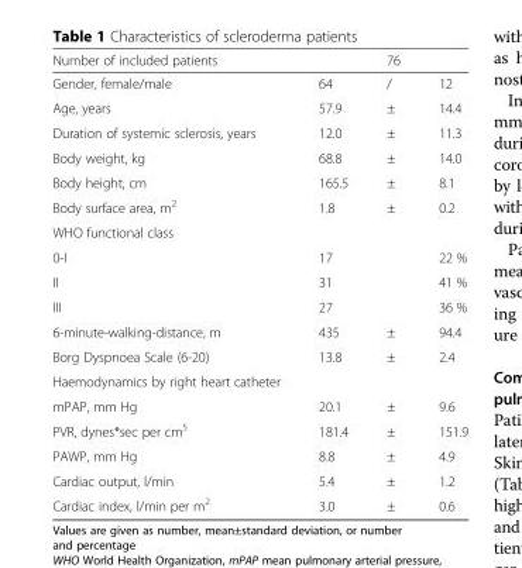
<table><thead><tr><td>Number of included patients</td><td></td><td>76</td><td></td></tr></thead><tbody><tr><td>Gender, female/male</td><td>64</td><td>/</td><td>12</td></tr><tr><td>Age, years</td><td>57.9</td><td>±</td><td>14.4</td></tr><tr><td>Duration of systemic sclerosis, years</td><td>12.0</td><td>±</td><td>11.3</td></tr><tr><td>Body weight, kg</td><td>68.8</td><td>±</td><td>14.0</td></tr><tr><td>Body height, cm</td><td>165.5</td><td>±</td><td>8.1</td></tr><tr><td>Body surface area, m<sup>2</sup></td><td>1.8</td><td>±</td><td>0.2</td></tr><tr><td colspan="4">WHO functional class</td></tr><tr><td>0-I</td><td>17</td><td></td><td>22 %</td></tr><tr><td>II</td><td>31</td><td></td><td>41 %</td></tr><tr><td>III</td><td>27</td><td></td><td>36 %</td></tr><tr><td>6-minute-walking-distance, m</td><td>435</td><td>±</td><td>94.4</td></tr><tr><td>Borg Dyspnoea Scale (6-20)</td><td>13.8</td><td>±</td><td>2.4</td></tr><tr><td colspan="4">Haemodynamics by right heart catheter</td></tr><tr><td>mPAP, mm Hg</td><td>20.1</td><td>±</td><td>9.6</td></tr><tr><td>PVR, dynes*sec per cm<sup>5</sup></td><td>181.4</td><td>±</td><td>151.9</td></tr><tr><td>PAWP, mm Hg</td><td>8.8</td><td>±</td><td>4.9</td></tr><tr><td>Cardiac output, l/min</td><td>5.4</td><td>±</td><td>1.2</td></tr><tr><td>Cardiac index, l/min per m<sup>2</sup></td><td>3.0</td><td>±</td><td>0.6</td></tr></tbody></table>